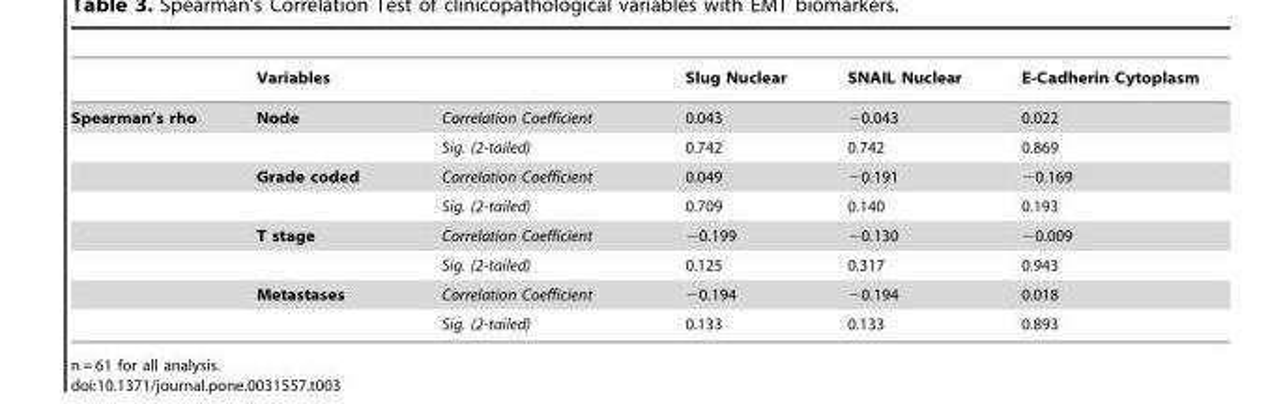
<table><thead><tr><td></td><td>Variables</td><td></td><td>Slug Nuclear</td><td>SNAIL Nuclear</td><td>E-Cadherin Cytoplasm</td></tr></thead><tbody><tr><td rowspan="8">Spearman’s rho</td><td>Node</td><td>Correlation Coefficient</td><td>0.043</td><td>−0.043</td><td>0.022</td></tr><tr><td></td><td>Sig. (2-tailed)</td><td>0.742</td><td>0.742</td><td>0.869</td></tr><tr><td>Grade coded</td><td>Correlation Coefficient</td><td>0.049</td><td>−0.191</td><td>−0.169</td></tr><tr><td></td><td>Sig. (2-tailed)</td><td>0.709</td><td>0.140</td><td>0.193</td></tr><tr><td>T stage</td><td>Correlation Coefficient</td><td>−0.199</td><td>−0.130</td><td>−0.009</td></tr><tr><td></td><td>Sig. (2-tailed)</td><td>0.125</td><td>0.317</td><td>0.943</td></tr><tr><td>Metastases</td><td>Correlation Coefficient</td><td>−0.194</td><td>−0.194</td><td>0.018</td></tr><tr><td></td><td>Sig. (2-tailed)</td><td>0.133</td><td>0.133</td><td>0.893</td></tr></tbody></table>